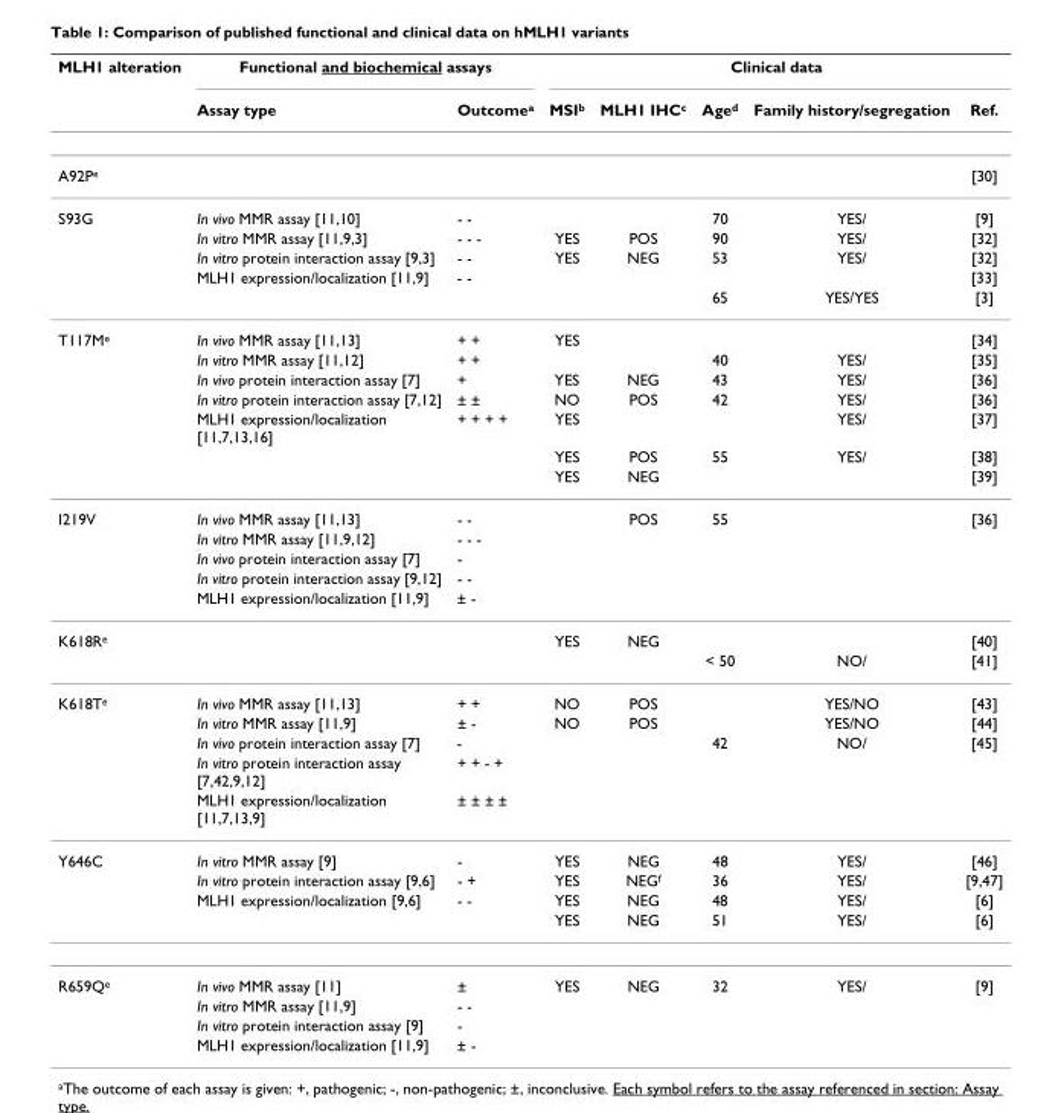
<table><thead><tr><td rowspan="2">MLH1 alteration</td><td colspan="2">Functional and biochemical assays</td><td colspan="5">Clinical data</td></tr><tr><td>Assay type</td><td>Outcome<sup>a</sup></td><td>MSI<sup>b</sup></td><td>MLH1 IHC<sup>c</sup></td><td>Age<sup>d</sup></td><td>Family history/segregation</td><td>Ref.</td></tr></thead><tbody><tr><td>A92P<sup>e</sup></td><td></td><td></td><td></td><td></td><td></td><td></td><td>[30]</td></tr><tr><td rowspan="5">S93G</td><td>In vivo MMR assay [11,10]</td><td>- -</td><td></td><td></td><td>70</td><td>YES/</td><td>[9]</td></tr><tr><td>In vitro MMR assay [11,9,3]</td><td>- - -</td><td>YES</td><td>POS</td><td>90</td><td>YES/</td><td>[32]</td></tr><tr><td>In vitro protein interaction assay [9,3]</td><td>- -</td><td>YES</td><td>NEG</td><td>53</td><td>YES/</td><td>[32]</td></tr><tr><td>MLH1 expression/localization [11,9]</td><td>- -</td><td></td><td></td><td></td><td></td><td>[33]</td></tr><tr><td></td><td></td><td></td><td></td><td>65</td><td>YES/YES</td><td>[3]</td></tr><tr><td rowspan="7">T117M<sup>e</sup></td><td>In vivo MMR assay [11,13]</td><td>+ +</td><td>YES</td><td></td><td></td><td></td><td>[34]</td></tr><tr><td>In vitro MMR assay [11,12]</td><td>+ +</td><td></td><td></td><td>40</td><td>YES/</td><td>[35]</td></tr><tr><td>In vivo protein interaction assay [7]</td><td>+</td><td>YES</td><td>NEG</td><td>43</td><td>YES/</td><td>[36]</td></tr><tr><td>In vitro protein interaction assay [7,12]</td><td>± ±</td><td>NO</td><td>POS</td><td>42</td><td>YES/</td><td>[36]</td></tr><tr><td>MLH1 expression/localization [11,7,13,16]</td><td>+ + + +</td><td>YES</td><td></td><td></td><td>YES/</td><td>[37]</td></tr><tr><td></td><td></td><td>YES</td><td>POS</td><td>55</td><td>YES/</td><td>[38]</td></tr><tr><td></td><td></td><td>YES</td><td>NEG</td><td></td><td></td><td>[39]</td></tr><tr><td rowspan="5">I219V</td><td>In vivo MMR assay [11,13]</td><td>- -</td><td></td><td>POS</td><td>55</td><td></td><td>[36]</td></tr><tr><td>In vitro MMR assay [11,9,12]</td><td>- - -</td><td></td><td></td><td></td><td></td><td></td></tr><tr><td>In vivo protein interaction assay [7]</td><td>-</td><td></td><td></td><td></td><td></td><td></td></tr><tr><td>In vitro protein interaction assay [9,12]</td><td>- -</td><td></td><td></td><td></td><td></td><td></td></tr><tr><td>MLH1 expression/localization [11,9]</td><td>± -</td><td></td><td></td><td></td><td></td><td></td></tr><tr><td rowspan="2">K618R<sup>e</sup></td><td></td><td></td><td>YES</td><td>NEG</td><td></td><td></td><td>[40]</td></tr><tr><td></td><td></td><td></td><td></td><td>&lt; 50</td><td>NO/</td><td>[41]</td></tr><tr><td rowspan="5">K618T<sup>e</sup></td><td>In vivo MMR assay [11,13]</td><td>+ +</td><td>NO</td><td>POS</td><td></td><td>YES/NO</td><td>[43]</td></tr><tr><td>In vitro MMR assay [11,9]</td><td>± -</td><td>NO</td><td>POS</td><td></td><td>YES/NO</td><td>[44]</td></tr><tr><td>In vivo protein interaction assay [7]</td><td>-</td><td></td><td></td><td>42</td><td>NO/</td><td>[45]</td></tr><tr><td>In vitro protein interaction assay [7,42,9,12]</td><td>+ + - +</td><td></td><td></td><td></td><td></td><td></td></tr><tr><td>MLH1 expression/localization [11,7,13,9]</td><td>± ± ± ±</td><td></td><td></td><td></td><td></td><td></td></tr><tr><td rowspan="4">Y646C</td><td>In vitro MMR assay [9]</td><td>-</td><td>YES</td><td>NEG</td><td>48</td><td>YES/</td><td>[46]</td></tr><tr><td>In vitro protein interaction assay [9,6]</td><td>- +</td><td>YES</td><td>NEG<sup>f</sup></td><td>36</td><td>YES/</td><td>[9,47]</td></tr><tr><td>MLH1 expression/localization [9,6]</td><td>- -</td><td>YES</td><td>NEG</td><td>48</td><td>YES/</td><td>[6]</td></tr><tr><td></td><td></td><td>YES</td><td>NEG</td><td>51</td><td>YES/</td><td>[6]</td></tr><tr><td rowspan="4">R659Q<sup>e</sup></td><td>In vivo MMR assay [11]</td><td>±</td><td>YES</td><td>NEG</td><td>32</td><td>YES/</td><td>[9]</td></tr><tr><td>In vitro MMR assay [11,9]</td><td>- -</td><td></td><td></td><td></td><td></td><td></td></tr><tr><td>In vitro protein interaction assay [9]</td><td>-</td><td></td><td></td><td></td><td></td><td></td></tr><tr><td>MLH1 expression/localization [11,9]</td><td>± -</td><td></td><td></td><td></td><td></td><td></td></tr></tbody></table>